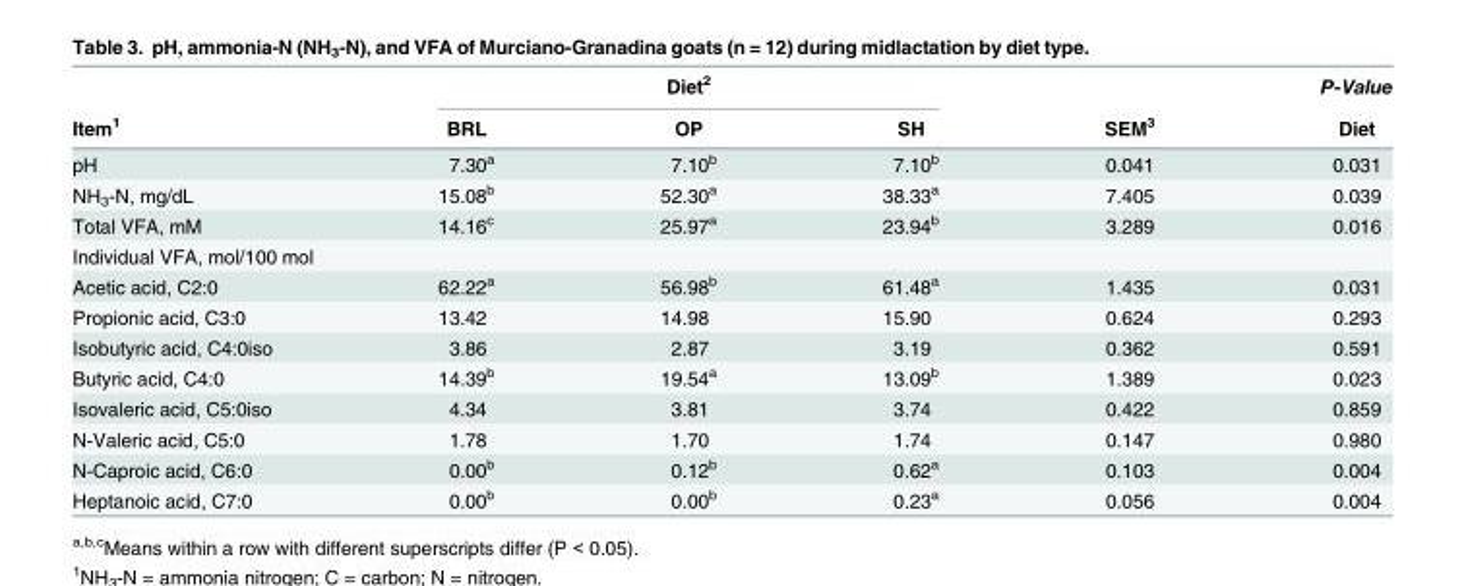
<table><thead><tr><td rowspan="2">Item<sup>1</sup></td><td colspan="3">Diet<sup>2</sup></td><td rowspan="2">SEM<sup>3</sup></td><td rowspan="2">P-Value Diet</td></tr><tr><td>BRL</td><td>OP</td><td>SH</td></tr></thead><tbody><tr><td>pH</td><td>7.30<sup>a</sup></td><td>7.10<sup>b</sup></td><td>7.10<sup>b</sup></td><td>0.041</td><td>0.031</td></tr><tr><td>NH<sub>3</sub>-N, mg/dL</td><td>15.08<sup>b</sup></td><td>52.30<sup>a</sup></td><td>38.33<sup>a</sup></td><td>7.405</td><td>0.039</td></tr><tr><td>Total VFA, mM</td><td>14.16<sup>c</sup></td><td>25.97<sup>a</sup></td><td>23.94<sup>b</sup></td><td>3.289</td><td>0.016</td></tr><tr><td colspan="6">Individual VFA, mol/100 mol</td></tr><tr><td>Acetic acid, C2:0</td><td>62.22<sup>a</sup></td><td>56.98<sup>b</sup></td><td>61.48<sup>a</sup></td><td>1.435</td><td>0.031</td></tr><tr><td>Propionic acid, C3:0</td><td>13.42</td><td>14.98</td><td>15.90</td><td>0.624</td><td>0.293</td></tr><tr><td>Isobutyric acid, C4:0iso</td><td>3.86</td><td>2.87</td><td>3.19</td><td>0.362</td><td>0.591</td></tr><tr><td>Butyric acid, C4:0</td><td>14.39<sup>b</sup></td><td>19.54<sup>a</sup></td><td>13.09<sup>b</sup></td><td>1.389</td><td>0.023</td></tr><tr><td>Isovaleric acid, C5:0iso</td><td>4.34</td><td>3.81</td><td>3.74</td><td>0.422</td><td>0.859</td></tr><tr><td>N-Valeric acid, C5:0</td><td>1.78</td><td>1.70</td><td>1.74</td><td>0.147</td><td>0.980</td></tr><tr><td>N-Caproic acid, C6:0</td><td>0.00<sup>b</sup></td><td>0.12<sup>b</sup></td><td>0.62<sup>a</sup></td><td>0.103</td><td>0.004</td></tr><tr><td>Heptanoic acid, C7:0</td><td>0.00<sup>b</sup></td><td>0.00<sup>b</sup></td><td>0.23<sup>a</sup></td><td>0.056</td><td>0.004</td></tr></tbody></table>